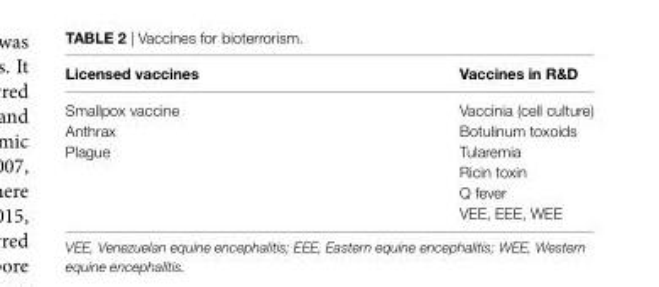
<table><thead><tr><td>Licensed vaccines</td><td>vaccines in R&amp;D</td></tr></thead><tbody><tr><td>Smallpox vaccine</td><td>Vaccinia (cell culture)</td></tr><tr><td>Anthrax</td><td>Botulinum toxoids</td></tr><tr><td rowspan="4">Plague</td><td>Tularemia</td></tr><tr><td>Ricin toxin</td></tr><tr><td>Q fever</td></tr><tr><td>VEE, EEE, WEE</td></tr></tbody></table>